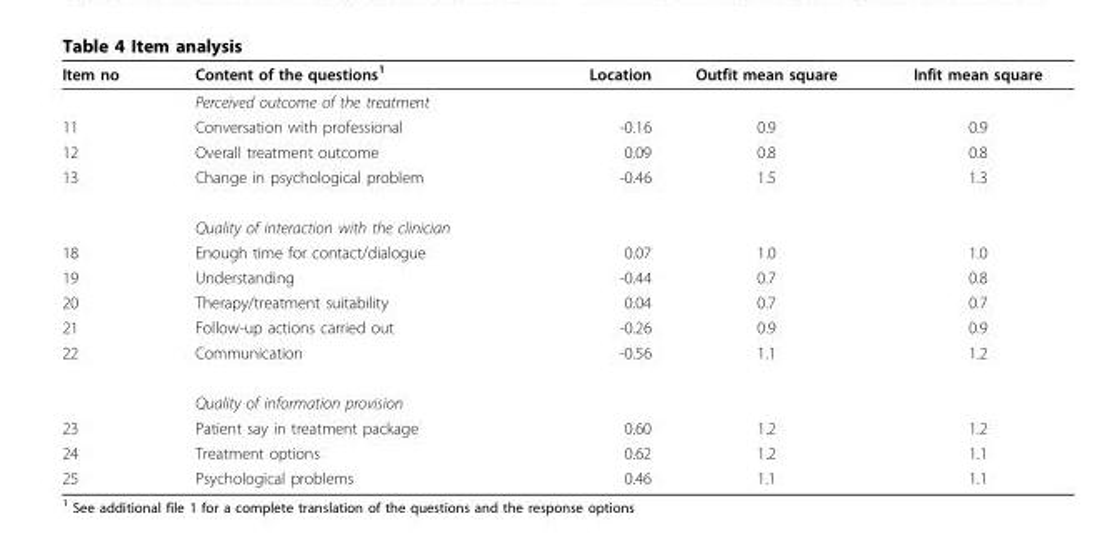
<table><thead><tr><td>Item no</td><td>Content of the questions<sup>1</sup></td><td>Location</td><td>Outfit mean square</td><td>Infit mean square</td></tr></thead><tbody><tr><td></td><td>Perceived outcome of the treatment</td><td></td><td></td><td></td></tr><tr><td>11</td><td>Conversation with professional</td><td>-0.16</td><td>0.9</td><td>0.9</td></tr><tr><td>12</td><td>Overall treatment outcome</td><td>0.09</td><td>0.8</td><td>0.8</td></tr><tr><td rowspan="2">13</td><td>Change in psychological problem</td><td>-0.46</td><td>1.5</td><td>1.3</td></tr><tr><td>Quality of interaction with the clinician</td><td></td><td></td><td></td></tr><tr><td>18</td><td>Enough time for contact/dialogue</td><td>0.07</td><td>1.0</td><td>1.0</td></tr><tr><td>19</td><td>Understanding</td><td>-0.44</td><td>0.7</td><td>0.8</td></tr><tr><td>20</td><td>Therapy/treatment suitability</td><td>0.04</td><td>0.7</td><td>0.7</td></tr><tr><td>21</td><td>Follow-up actions carried out</td><td>-0.26</td><td>0.9</td><td>0.9</td></tr><tr><td rowspan="2">22</td><td>Communication</td><td>-0.56</td><td>1.1</td><td>1.2</td></tr><tr><td>Quality of information provision</td><td></td><td></td><td></td></tr><tr><td>23</td><td>Patient say in treatment package</td><td>0.60</td><td>1.2</td><td>1.2</td></tr><tr><td>24</td><td>Treatment options</td><td>0.62</td><td>1.2</td><td>1.1</td></tr><tr><td>25</td><td>Psychological problems</td><td>0.46</td><td>1.1</td><td>1.1</td></tr></tbody></table>